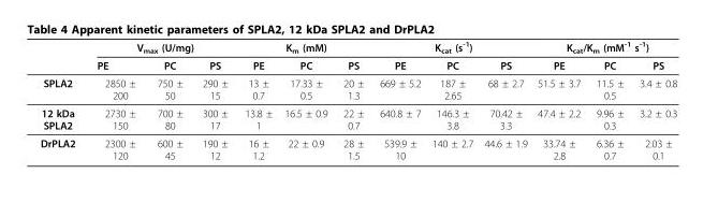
<table><thead><tr><td rowspan="2"></td><td colspan="3">V<sub>max</sub> (U/mg)</td><td colspan="3">K<sub>m</sub> (mM)</td><td colspan="3">K<sub>cat</sub> (s<sup>-1</sup>)</td><td colspan="3">K<sub>cat</sub>/K<sub>m</sub> (mM<sup>-1</sup> s<sup>-1</sup>)</td></tr><tr><td>PE</td><td>PC</td><td>PS</td><td>PE</td><td>PC</td><td>PS</td><td>PE</td><td>PC</td><td>PS</td><td>PE</td><td>PC</td><td>PS</td></tr></thead><tbody><tr><td>SPLA2</td><td>2850 ± 200</td><td>750 ± 50</td><td>290 ± 15</td><td>13 ± 0.7</td><td>17.33 ± 0.5</td><td>20 ± 1.3</td><td>669 ± 5.2</td><td>187 ± 2.65</td><td>68 ± 2.7</td><td>51.5 ± 3.7</td><td>11.5 ± 0.5</td><td>3.4 ± 0.8</td></tr><tr><td>12 kDa SPLA2</td><td>2730 ± 150</td><td>700 ± 80</td><td>300 ± 17</td><td>13.8 ± 1</td><td>16.5 ± 0.9</td><td>22 ± 0.7</td><td>640.8 ± 7</td><td>146.3 ± 3.8</td><td>70.42 ± 3.3</td><td>47.4 ± 2.2</td><td>9.96 ± 0.3</td><td>3.2 ± 0.3</td></tr><tr><td>DrPLA2</td><td>2300 ± 120</td><td>600 ± 45</td><td>190 ± 12</td><td>16 ± 1.2</td><td>22 ± 0.9</td><td>28 ± 1.5</td><td>539.9 ± 10</td><td>140 ± 2.7</td><td>44.6 ± 1.9</td><td>33.74 ± 2.8</td><td>6.36 ± 0.7</td><td>2.03 ± 0.1</td></tr></tbody></table>